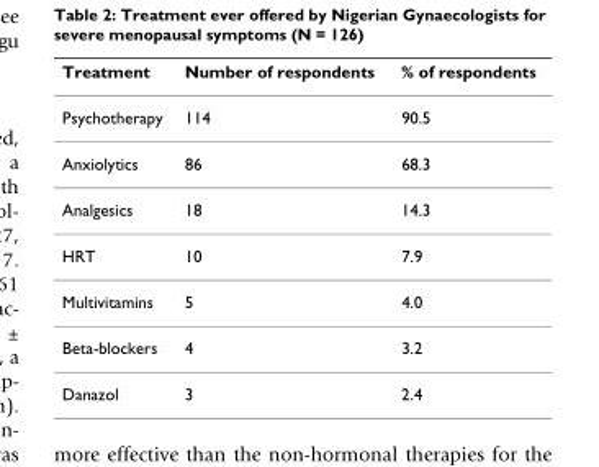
<table><thead><tr><td>Treatment</td><td>Number of respondents</td><td>% of respondents</td></tr></thead><tbody><tr><td>Psychotherapy</td><td>114</td><td>90.5</td></tr><tr><td>Anxiolytics</td><td>86</td><td>68.3</td></tr><tr><td>Analgesics</td><td>18</td><td>14.3</td></tr><tr><td>HRT</td><td>10</td><td>7.9</td></tr><tr><td>Multivitamins</td><td>5</td><td>4.0</td></tr><tr><td>Beta-blockers</td><td>4</td><td>3.2</td></tr><tr><td>Danazol</td><td>3</td><td>2.4</td></tr></tbody></table>